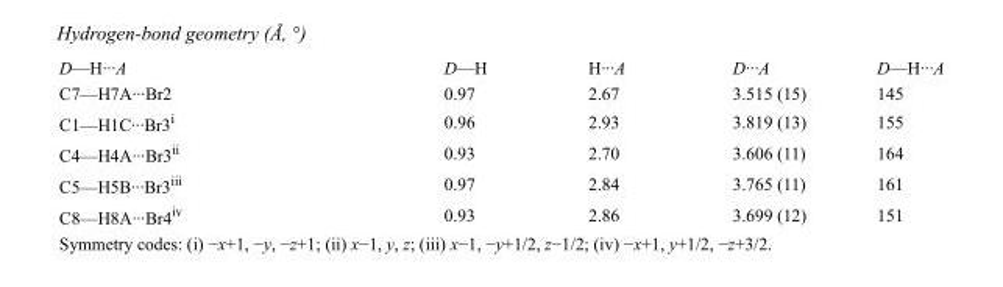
<table><tbody><tr><td>D—H···A</td><td>D—H</td><td>H···A</td><td>D···A</td><td>D—H···A</td></tr><tr><td>C7—H7A···Br2</td><td>0.97</td><td>2.67</td><td>3.515 (15)</td><td>145</td></tr><tr><td>C1—H1C···Br3<sup>i</sup></td><td>0.96</td><td>2.93</td><td>3.819 (13)</td><td>155</td></tr><tr><td>C4—H4A···Br3<sup>ii</sup></td><td>0.93</td><td>2.70</td><td>3.606 (11)</td><td>164</td></tr><tr><td>C5—H5B···Br3<sup>iii</sup></td><td>0.97</td><td>2.84</td><td>3.765 (11)</td><td>161</td></tr><tr><td>C8—H8A···Br4<sup>iv</sup></td><td>0.93</td><td>2.86</td><td>3.699 (12)</td><td>151</td></tr></tbody></table>